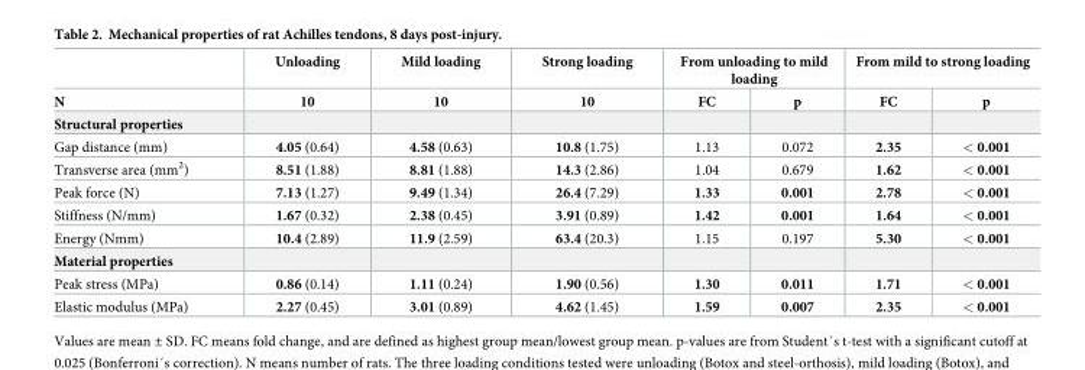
<table><thead><tr><td rowspan="2">N</td><td rowspan="2">Unloading 10</td><td rowspan="2">Mild loading 10</td><td rowspan="2">Strong loading 10</td><td colspan="2">From unloading to mild loading</td><td colspan="2">From mild to strong loading</td></tr><tr><td>FC</td><td>p</td><td>FC</td><td>p</td></tr></thead><tbody><tr><td colspan="8">Structural properties</td></tr><tr><td>Gap distance (mm)</td><td>4.05 (0.64)</td><td>4.58 (0.63)</td><td>10.8 (1.75)</td><td>1.13</td><td>0.072</td><td>2.35</td><td>&lt; 0.001</td></tr><tr><td>Transverse area (mm<sup>2</sup>)</td><td>8.51 (1.88)</td><td>8.81 (1.88)</td><td>14.3 (2.86)</td><td>1.04</td><td>0.679</td><td>1.62</td><td>&lt; 0.001</td></tr><tr><td>Peak force (N)</td><td>7.13 (1.27)</td><td>9.49 (1.34)</td><td>26.4 (7.29)</td><td>1.33</td><td>0.001</td><td>2.78</td><td>&lt; 0.001</td></tr><tr><td>Stiffness (N/mm)</td><td>1.67 (0.32)</td><td>2.38 (0.45)</td><td>3.91 (0.89)</td><td>1.42</td><td>0.001</td><td>1.64</td><td>&lt; 0.001</td></tr><tr><td>Energy (Nmm)</td><td>10.4 (2.89)</td><td>11.9 (2.59)</td><td>63.4 (20.3)</td><td>1.15</td><td>0.197</td><td>5.30</td><td>&lt; 0.001</td></tr><tr><td colspan="8">Material properties</td></tr><tr><td>Peak stress (MPa)</td><td>0.86 (0.14)</td><td>1.11 (0.24)</td><td>1.90 (0.56)</td><td>1.30</td><td>0.011</td><td>1.71</td><td>&lt; 0.001</td></tr><tr><td>Elastic modulus (MPa)</td><td>2.27 (0.45)</td><td>3.01 (0.89)</td><td>4.62 (1.45)</td><td>1.59</td><td>0.007</td><td>2.35</td><td>&lt; 0.001</td></tr></tbody></table>